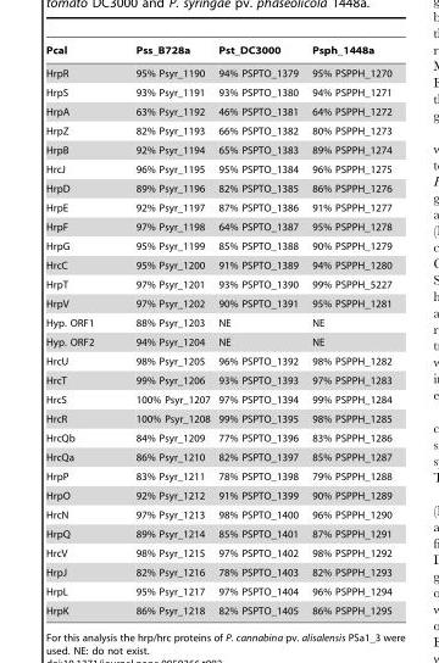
<table><thead><tr><td>Pcal</td><td>Pss_B728a</td><td>Pst_DC3000</td><td>Psph_1448a</td></tr></thead><tbody><tr><td>HrpR</td><td>95% Psyr_1190</td><td>94% PSPTO_1379</td><td>95% PSPPH_1270</td></tr><tr><td>HrpS</td><td>93% Psyr_1191</td><td>93% PSPTO_1380</td><td>94% PSPPH_1271</td></tr><tr><td>HrpA</td><td>63% Psyr_1192</td><td>46% PSPTO_1381</td><td>64% PSPPH_1272</td></tr><tr><td>HrpZ</td><td>82% Psyr_1193</td><td>66% PSPTO_1382</td><td>80% PSPPH_1273</td></tr><tr><td>HrpB</td><td>92% Psyr_1194</td><td>65% PSPTO_1383</td><td>89% PSPPH_1274</td></tr><tr><td>HrcJ</td><td>96% Psyr_1195</td><td>95% PSPTO_1384</td><td>96% PSPPH_1275</td></tr><tr><td>HrpD</td><td>89% Psyr_1196</td><td>82% PSPTO_1385</td><td>86% PSPPH_1276</td></tr><tr><td>HrpE</td><td>92% Psyr_1197</td><td>87% PSPTO_1386</td><td>91% PSPPH_1277</td></tr><tr><td>HrpF</td><td>97% Psyr_1198</td><td>64% PSPTO_1387</td><td>95% PSPPH_1278</td></tr><tr><td>HrpG</td><td>95% Psyr_1199</td><td>85% PSPTO_1388</td><td>90% PSPPH_1279</td></tr><tr><td>HrcC</td><td>95% Psyr_1200</td><td>91% PSPTO_1389</td><td>94% PSPPH_1280</td></tr><tr><td>HrpT</td><td>97% Psyr_1201</td><td>93% PSPTO_1390</td><td>99% PSPPH_5227</td></tr><tr><td>HrpV</td><td>97% Psyr_1202</td><td>90% PSPTO_1391</td><td>95% PSPPH_1281</td></tr><tr><td>Hyp. ORF1</td><td>88% Psyr_1203</td><td>NE</td><td>NE</td></tr><tr><td>Hyp. ORF2</td><td>94% Psyr_1204</td><td>NE</td><td>NE</td></tr><tr><td>HrcU</td><td>98% Psyr_1205</td><td>96% PSPTO_1392</td><td>98% PSPPH_1282</td></tr><tr><td>HrcT</td><td>99% Psyr_1206</td><td>93% PSPTO_1393</td><td>97% PSPPH_1283</td></tr><tr><td>HrcS</td><td>100% Psyr_1207</td><td>97% PSPTO_1394</td><td>99% PSPPH_1284</td></tr><tr><td>HrcR</td><td>100% Psyr_1208</td><td>99% PSPTO_1395</td><td>98% PSPPH_1285</td></tr><tr><td>HrcQb</td><td>84% Psyr_1209</td><td>77% PSPTO_1396</td><td>83% PSPPH_1286</td></tr><tr><td>HrcQa</td><td>86% Psyr_1210</td><td>82% PSPTO_1397</td><td>85% PSPPH_1287</td></tr><tr><td>HrpP</td><td>83% Psyr_1211</td><td>78% PSPTO_1398</td><td>79% PSPPH_1288</td></tr><tr><td>HrpO</td><td>92% Psyr_1212</td><td>91% PSPTO_1399</td><td>90% PSPPH_1289</td></tr><tr><td>HrcN</td><td>97% Psyr_1213</td><td>98% PSPTO_1400</td><td>96% PSPPH_1290</td></tr><tr><td>HrpQ</td><td>89% Psyr_1214</td><td>85% PSPTO_1401</td><td>87% PSPPH_1291</td></tr><tr><td>HrcV</td><td>98% Psyr_1215</td><td>97% PSPTO_1402</td><td>98% PSPPH_1292</td></tr><tr><td>HrpJ</td><td>82% Psyr_1216</td><td>78% PSPTO_1403</td><td>82% PSPPH_1293</td></tr><tr><td>HrpL</td><td>95% Psyr_1217</td><td>97% PSPTO_1404</td><td>96% PSPPH_1294</td></tr><tr><td>HrpK</td><td>86% Psyr_1218</td><td>82% PSPTO_1405</td><td>86% PSPPH_1295</td></tr></tbody></table>